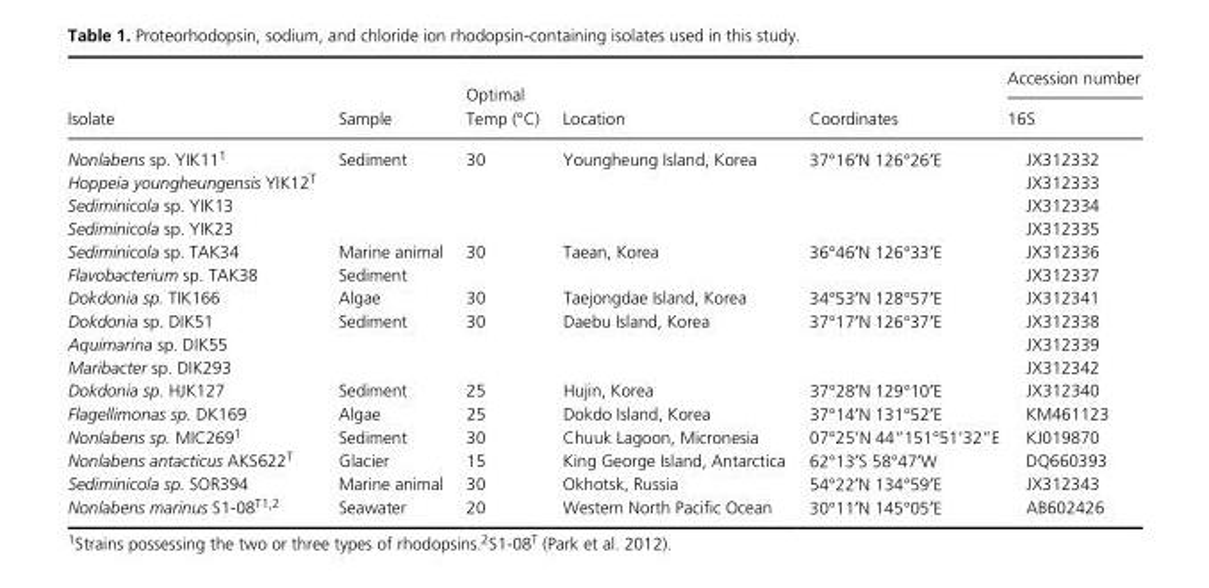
<table><thead><tr><td rowspan="2">Isolate</td><td rowspan="2">Sample</td><td rowspan="2">Optimal Temp (°C)</td><td rowspan="2">Location</td><td rowspan="2">Coordinates</td><td rowspan="2">Accession number 16S</td></tr><tr></tr></thead><tbody><tr><td>Nonlabens sp. YIK111</td><td rowspan="4">Sediment</td><td rowspan="4">30</td><td rowspan="4">Youngheung Island, Korea</td><td rowspan="4">37°16′N 126°26′E</td><td>JX312332</td></tr><tr><td>Hoppeia youngheungensis YIK12<sup>T</sup></td><td>JX312333</td></tr><tr><td>Sediminicola sp. YIK13</td><td>JX312334</td></tr><tr><td>Sediminicola sp. YIK23</td><td>JX312335</td></tr><tr><td>Sediminicola sp. TAK34</td><td>Marine animal</td><td rowspan="2">30</td><td rowspan="2">Taean, Korea</td><td rowspan="2">36°46′N 126°33′E</td><td>JX312336</td></tr><tr><td>Flavobacterium sp. TAK38</td><td>Sediment</td><td>JX312337</td></tr><tr><td>Dokdonia sp. TIK166</td><td>Algae</td><td>30</td><td>Taejongdae Island, Korea</td><td>34°53′N 128°57′E</td><td>JX312341</td></tr><tr><td>Dokdonia sp. DIK51</td><td rowspan="3">Sediment</td><td rowspan="3">30</td><td rowspan="3">Daebu Island, Korea</td><td rowspan="3">37°17′N 126°37′E</td><td>JX312338</td></tr><tr><td>Aquimarina sp. DIK55</td><td>JX312339</td></tr><tr><td>Maribacter sp. DIK293</td><td>JX312342</td></tr><tr><td>Dokdonia sp. HJK127</td><td>Sediment</td><td>25</td><td>Hujin, Korea</td><td>37°28′N 129°10′E</td><td>JX312340</td></tr><tr><td>Flagellimonas sp. DK169</td><td>Algae</td><td>25</td><td>Dokdo Island, Korea</td><td>37°14′N 131°52′E</td><td>KM461123</td></tr><tr><td>Nonlabens sp. MIC2691</td><td>Sediment</td><td>30</td><td>Chuuk Lagoon, Micronesia</td><td>07°25’N 44”151°51’32”E</td><td>KJ019870</td></tr><tr><td>Nonlabens antacticus AKS622<sup>T</sup></td><td>Glacier</td><td>15</td><td>King George Island, Antarctica</td><td>62°13′S 58°47′W</td><td>DQ660393</td></tr><tr><td>Sediminicola sp. SOR394</td><td>Marine animal</td><td>30</td><td>Okhotsk, Russia</td><td>54°22′N 134°59′E</td><td>JX312343</td></tr><tr><td>Nonlabens marinus S1- 08T1,2</td><td>Seawater</td><td>20</td><td>Western North Pacific Ocean</td><td>30°11′N 145°05′E</td><td>AB602426</td></tr></tbody></table>